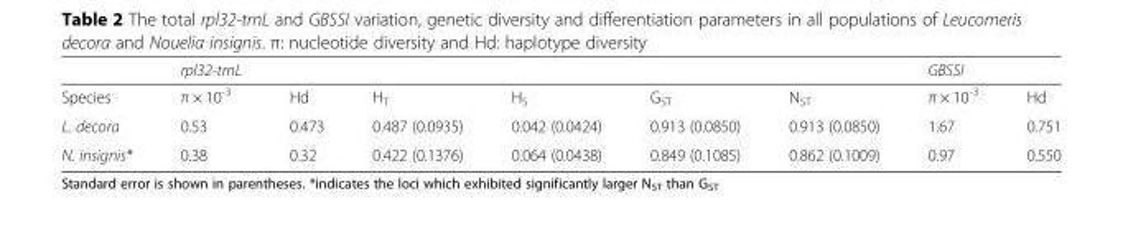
<table><thead><tr><td></td><td>rpl32-trnL</td><td></td><td></td><td></td><td></td><td></td><td>GBSSI</td><td></td></tr></thead><tbody><tr><td>Species</td><td>π × 10<sup>-3</sup></td><td>Hd</td><td>H<sub>T</sub></td><td>H<sub>S</sub></td><td>G<sub>ST</sub></td><td>N<sub>ST</sub></td><td>π × 10<sup>-3</sup></td><td>Hd</td></tr><tr><td>L. decora</td><td>0.53</td><td>0.473</td><td>0.487 (0.0935)</td><td>0.042 (0.0424)</td><td>0.913 (0.0850)</td><td>0.913 (0.0850)</td><td>1.67</td><td>0.751</td></tr><tr><td>N. insignis*</td><td>0.38</td><td>0.32</td><td>0.422 (0.1376)</td><td>0.064 (0.0438)</td><td>0.849 (0.1085)</td><td>0.862 (0.1009)</td><td>0.97</td><td>0.550</td></tr></tbody></table>